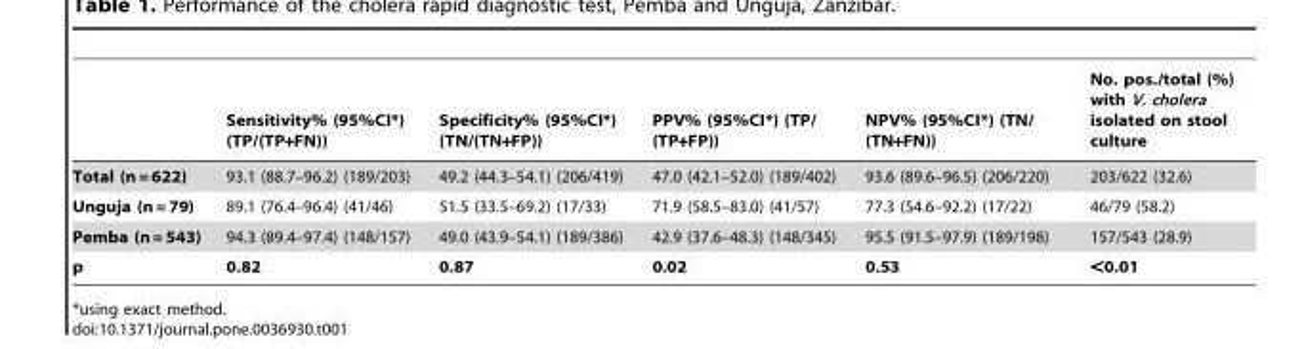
<table><thead><tr><td></td><td>Sensitivity% (95%CI*) (TP/(TP+FN))</td><td>Specificity% (95%CI*) (TN/(TN+FP))</td><td>PPV% (95%CI*) (TP/ (TP+FP))</td><td>NPV% (95%CI*) (TN/ (TN+FN))</td><td>No. pos./total (%) with V. cholera isolated on stool culture</td></tr></thead><tbody><tr><td>Total (n = 622)</td><td>93.1 (88.7–96.2) (189/203)</td><td>49.2 (44.3–54.1) (206/419)</td><td>47.0 (42.1–52.0) (189/402)</td><td>93.6 (89.6–96.5) (206/220)</td><td>203/622 (32.6)</td></tr><tr><td>Unguja (n = 79)</td><td>89.1 (76.4–96.4) (41/46)</td><td>51.5 (33.5–69.2) (17/33)</td><td>71.9 (58.5–83.0) (41/57)</td><td>77.3 (54.6–92.2) (17/22)</td><td>46/79 (58.2)</td></tr><tr><td>Pemba (n = 543)</td><td>94.3 (89.4–97.4) (148/157)</td><td>49.0 (43.9–54.1) (189/386)</td><td>42.9 (37.6–48.3) (148/345)</td><td>95.5 (91.5–97.9) (189/198)</td><td>157/543 (28.9)</td></tr><tr><td>p</td><td>0.82</td><td>0.87</td><td>0.02</td><td>0.53</td><td>&lt;0.01</td></tr></tbody></table>